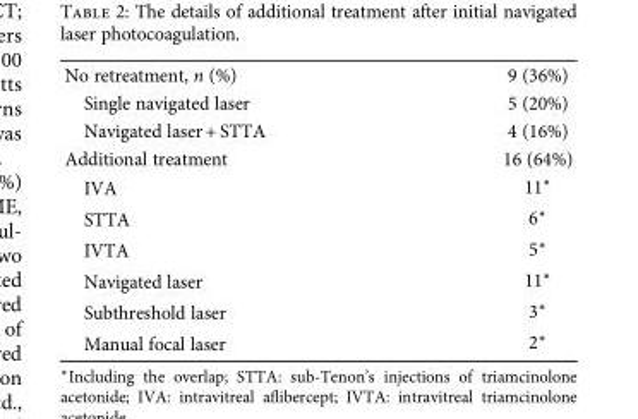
<table><tbody><tr><td>No retreatment, n (%)</td><td>9 (36%)</td></tr><tr><td>Single navigated laser</td><td>5 (20%)</td></tr><tr><td>Navigated laser + STTA</td><td>4 (16%)</td></tr><tr><td>Additional treatment</td><td>16 (64%)</td></tr><tr><td>IVA</td><td>11∗</td></tr><tr><td>STTA</td><td>6∗</td></tr><tr><td>IVTA</td><td>5∗</td></tr><tr><td>Navigated laser</td><td>11∗</td></tr><tr><td>Subthreshold laser</td><td>3∗</td></tr><tr><td>Manual focal laser</td><td>2∗</td></tr></tbody></table>